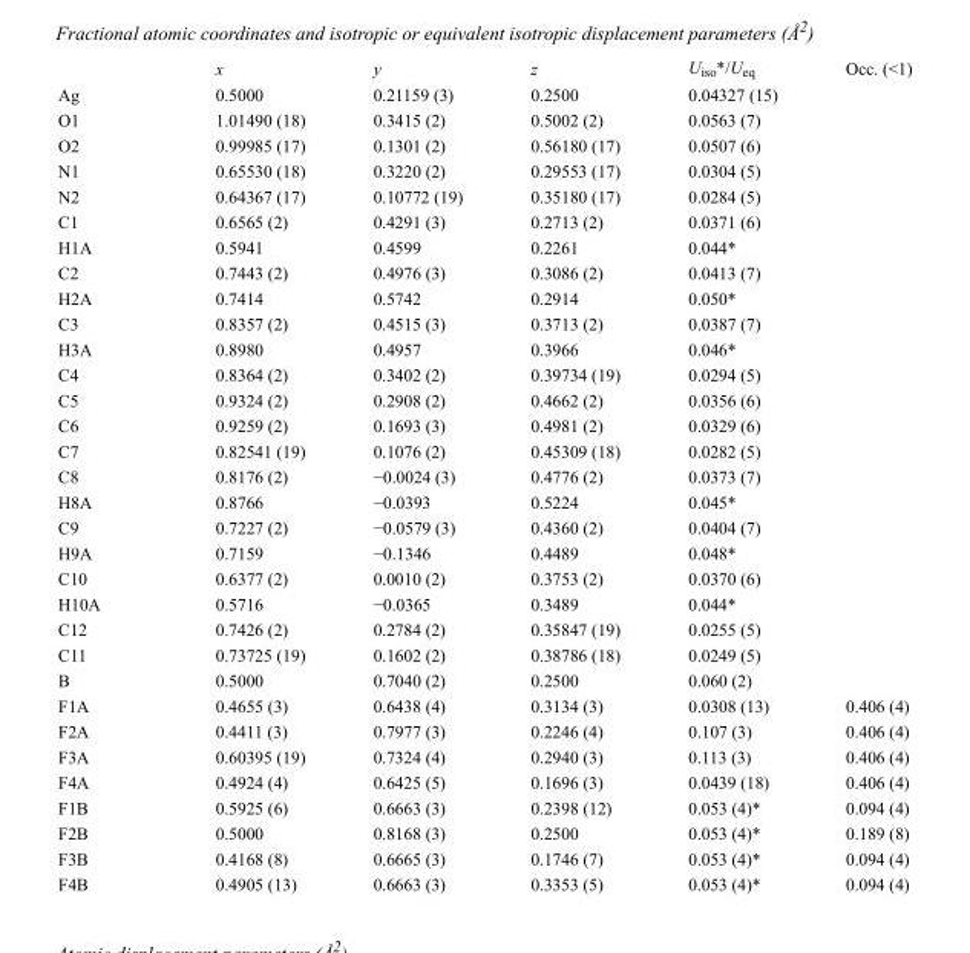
<table><thead><tr><td></td><td>x</td><td>y</td><td>z</td><td>U<sub>iso</sub>*/U<sub>eq</sub></td><td>Occ. (&lt;1)</td></tr></thead><tbody><tr><td>Ag</td><td>0.5000</td><td>0.21159 (3)</td><td>0.2500</td><td>0.04327 (15)</td><td></td></tr><tr><td>O1</td><td>1.01490 (18)</td><td>0.3415 (2)</td><td>0.5002 (2)</td><td>0.0563 (7)</td><td></td></tr><tr><td>O2</td><td>0.99985 (17)</td><td>0.1301 (2)</td><td>0.56180 (17)</td><td>0.0507 (6)</td><td></td></tr><tr><td>N1</td><td>0.65530 (18)</td><td>0.3220 (2)</td><td>0.29553 (17)</td><td>0.0304 (5)</td><td></td></tr><tr><td>N2</td><td>0.64367 (17)</td><td>0.10772 (19)</td><td>0.35180 (17)</td><td>0.0284 (5)</td><td></td></tr><tr><td>C1</td><td>0.6565 (2)</td><td>0.4291 (3)</td><td>0.2713 (2)</td><td>0.0371 (6)</td><td></td></tr><tr><td>H1A</td><td>0.5941</td><td>0.4599</td><td>0.2261</td><td>0.044*</td><td></td></tr><tr><td>C2</td><td>0.7443 (2)</td><td>0.4976 (3)</td><td>0.3086 (2)</td><td>0.0413 (7)</td><td></td></tr><tr><td>H2A</td><td>0.7414</td><td>0.5742</td><td>0.2914</td><td>0.050*</td><td></td></tr><tr><td>C3</td><td>0.8357 (2)</td><td>0.4515 (3)</td><td>0.3713 (2)</td><td>0.0387 (7)</td><td></td></tr><tr><td>H3A</td><td>0.8980</td><td>0.4957</td><td>0.3966</td><td>0.046*</td><td></td></tr><tr><td>C4</td><td>0.8364 (2)</td><td>0.3402 (2)</td><td>0.39734 (19)</td><td>0.0294 (5)</td><td></td></tr><tr><td>C5</td><td>0.9324 (2)</td><td>0.2908 (2)</td><td>0.4662 (2)</td><td>0.0356 (6)</td><td></td></tr><tr><td>C6</td><td>0.9259 (2)</td><td>0.1693 (3)</td><td>0.4981 (2)</td><td>0.0329 (6)</td><td></td></tr><tr><td>C7</td><td>0.82541 (19)</td><td>0.1076 (2)</td><td>0.45309 (18)</td><td>0.0282 (5)</td><td></td></tr><tr><td>C8</td><td>0.8176 (2)</td><td>−0.0024 (3)</td><td>0.4776 (2)</td><td>0.0373 (7)</td><td></td></tr><tr><td>H8A</td><td>0.8766</td><td>−0.0393</td><td>0.5224</td><td>0.045*</td><td></td></tr><tr><td>C9</td><td>0.7227 (2)</td><td>−0.0579 (3)</td><td>0.4360 (2)</td><td>0.0404 (7)</td><td></td></tr><tr><td>H9A</td><td>0.7159</td><td>−0.1346</td><td>0.4489</td><td>0.048*</td><td></td></tr><tr><td>C10</td><td>0.6377 (2)</td><td>0.0010 (2)</td><td>0.3753 (2)</td><td>0.0370 (6)</td><td></td></tr><tr><td>H10A</td><td>0.5716</td><td>−0.0365</td><td>0.3489</td><td>0.044*</td><td></td></tr><tr><td>C12</td><td>0.7426 (2)</td><td>0.2784 (2)</td><td>0.35847 (19)</td><td>0.0255 (5)</td><td></td></tr><tr><td>C11</td><td>0.73725 (19)</td><td>0.1602 (2)</td><td>0.38786 (18)</td><td>0.0249 (5)</td><td></td></tr><tr><td>B</td><td>0.5000</td><td>0.7040 (2)</td><td>0.2500</td><td>0.060 (2)</td><td></td></tr><tr><td>F1A</td><td>0.4655 (3)</td><td>0.6438 (4)</td><td>0.3134 (3)</td><td>0.0308 (13)</td><td>0.406 (4)</td></tr><tr><td>F2A</td><td>0.4411 (3)</td><td>0.7977 (3)</td><td>0.2246 (4)</td><td>0.107 (3)</td><td>0.406 (4)</td></tr><tr><td>F3A</td><td>0.60395 (19)</td><td>0.7324 (4)</td><td>0.2940 (3)</td><td>0.113 (3)</td><td>0.406 (4)</td></tr><tr><td>F4A</td><td>0.4924 (4)</td><td>0.6425 (5)</td><td>0.1696 (3)</td><td>0.0439 (18)</td><td>0.406 (4)</td></tr><tr><td>F1B</td><td>0.5925 (6)</td><td>0.6663 (3)</td><td>0.2398 (12)</td><td>0.053 (4)*</td><td>0.094 (4)</td></tr><tr><td>F2B</td><td>0.5000</td><td>0.8168 (3)</td><td>0.2500</td><td>0.053 (4)*</td><td>0.189 (8)</td></tr><tr><td>F3B</td><td>0.4168 (8)</td><td>0.6665 (3)</td><td>0.1746 (7)</td><td>0.053 (4)*</td><td>0.094 (4)</td></tr><tr><td>F4B</td><td>0.4905 (13)</td><td>0.6663 (3)</td><td>0.3353 (5)</td><td>0.053 (4)*</td><td>0.094 (4)</td></tr></tbody></table>